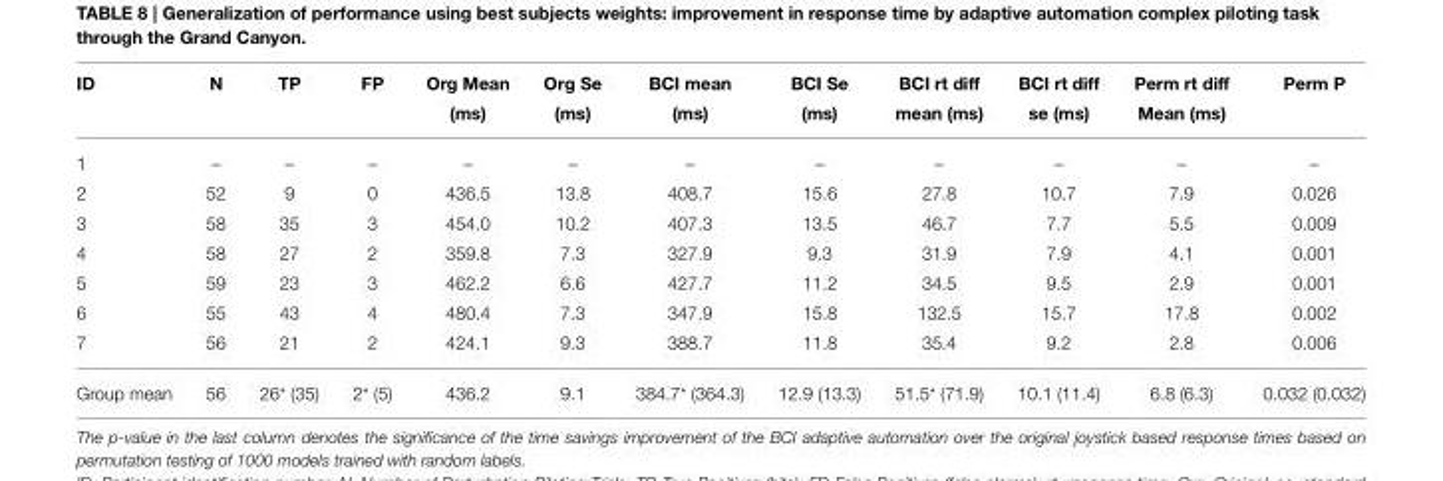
<table><thead><tr><td>ID</td><td>N</td><td>TP</td><td>FP</td><td>Org Mean (ms)</td><td>Org Se (ms)</td><td>BCI mean (ms)</td><td>BCI Se (ms)</td><td>BCI rt diff mean (ms)</td><td>BCI rt diff se (ms)</td><td>Perm rt diff Mean (ms)</td><td>Perm P</td></tr></thead><tbody><tr><td>1</td><td>–</td><td>–</td><td>–</td><td>–</td><td>–</td><td>–</td><td>–</td><td>–</td><td>–</td><td>–</td><td>–</td></tr><tr><td>2</td><td>52</td><td>9</td><td>0</td><td>436.5</td><td>13.8</td><td>408.7</td><td>15.6</td><td>27.8</td><td>10.7</td><td>7.9</td><td>0.026</td></tr><tr><td>3</td><td>58</td><td>35</td><td>3</td><td>454.0</td><td>10.2</td><td>407.3</td><td>13.5</td><td>46.7</td><td>7.7</td><td>5.5</td><td>0.009</td></tr><tr><td>4</td><td>58</td><td>27</td><td>2</td><td>359.8</td><td>7.3</td><td>327.9</td><td>9.3</td><td>31.9</td><td>7.9</td><td>4.1</td><td>0.001</td></tr><tr><td>5</td><td>59</td><td>23</td><td>3</td><td>462.2</td><td>6.6</td><td>427.7</td><td>11.2</td><td>34.5</td><td>9.5</td><td>2.9</td><td>0.001</td></tr><tr><td>6</td><td>55</td><td>43</td><td>4</td><td>480.4</td><td>7.3</td><td>347.9</td><td>15.8</td><td>132.5</td><td>15.7</td><td>17.8</td><td>0.002</td></tr><tr><td>7</td><td>56</td><td>21</td><td>2</td><td>424.1</td><td>9.3</td><td>388.7</td><td>11.8</td><td>35.4</td><td>9.2</td><td>2.8</td><td>0.006</td></tr><tr><td>Group mean</td><td>56</td><td>26* (35)</td><td>2* (5)</td><td>436.2</td><td>9.1</td><td>384.7* (364.3)</td><td>12.9 (13.3)</td><td>51.5* (71.9)</td><td>10.1 (11.4)</td><td>6.8 (6.3)</td><td>0.032 (0.032)</td></tr></tbody></table>